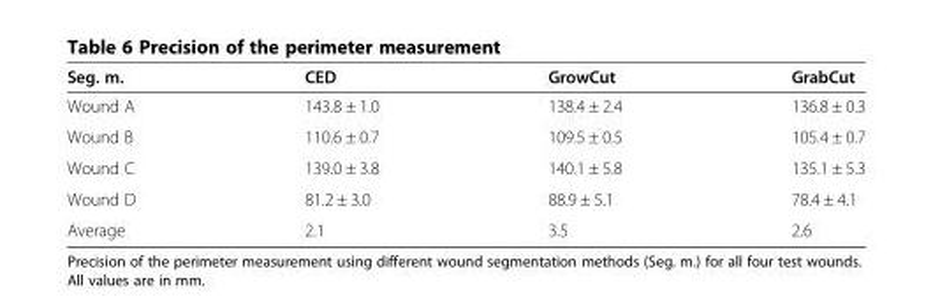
<table><thead><tr><td>Seg. m.</td><td>CED</td><td>GrowCut</td><td>GrabCut</td></tr></thead><tbody><tr><td>Wound A</td><td>143.8 ± 1.0</td><td>138.4 ± 2.4</td><td>136.8 ± 0.3</td></tr><tr><td>Wound B</td><td>110.6 ± 0.7</td><td>109.5 ± 0.5</td><td>105.4 ± 0.7</td></tr><tr><td>Wound C</td><td>139.0 ± 3.8</td><td>140.1 ± 5.8</td><td>135.1 ± 5.3</td></tr><tr><td>Wound D</td><td>81.2 ± 3.0</td><td>88.9 ± 5.1</td><td>78.4 ± 4.1</td></tr><tr><td>Average</td><td>2.1</td><td>3.5</td><td>2.6</td></tr></tbody></table>